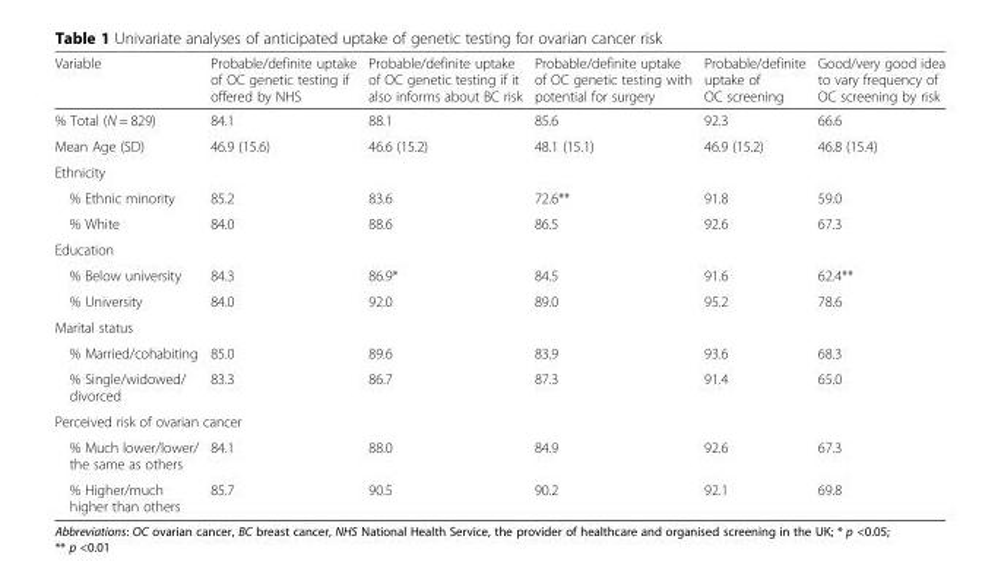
<table><thead><tr><td>Variable</td><td>Probable/definite uptake of OC genetic testing if offered by NHS</td><td>Probable/definite uptake of OC genetic testing if it also informs about BC risk</td><td>Probable/definite uptake of OC genetic testing with potential for surgery</td><td>Probable/definite uptake of OC screening</td><td>Good/very good idea to vary frequency of OC screening by risk</td></tr></thead><tbody><tr><td>% Total (N = 829)</td><td>84.1</td><td>88.1</td><td>85.6</td><td>92.3</td><td>66.6</td></tr><tr><td>Mean Age (SD)</td><td>46.9 (15.6)</td><td>46.6 (15.2)</td><td>48.1 (15.1)</td><td>46.9 (15.2)</td><td>46.8 (15.4)</td></tr><tr><td colspan="6">Ethnicity</td></tr><tr><td>% Ethnic minority</td><td>85.2</td><td>83.6</td><td>72.6**</td><td>91.8</td><td>59.0</td></tr><tr><td>% White</td><td>84.0</td><td>88.6</td><td>86.5</td><td>92.6</td><td>67.3</td></tr><tr><td colspan="6">Education</td></tr><tr><td>% Below university</td><td>84.3</td><td>86.9*</td><td>84.5</td><td>91.6</td><td>62.4**</td></tr><tr><td>% University</td><td>84.0</td><td>92.0</td><td>89.0</td><td>95.2</td><td>78.6</td></tr><tr><td colspan="6">Marital status</td></tr><tr><td>% Married/cohabiting</td><td>85.0</td><td>89.6</td><td>83.9</td><td>93.6</td><td>68.3</td></tr><tr><td>% Single/widowed/ divorced</td><td>83.3</td><td>86.7</td><td>87.3</td><td>91.4</td><td>65.0</td></tr><tr><td colspan="6">Perceived risk of ovarian cancer</td></tr><tr><td>% Much lower/lower/ the same as others</td><td>84.1</td><td>88.0</td><td>84.9</td><td>92.6</td><td>67.3</td></tr><tr><td>% Higher/much higher than others</td><td>85.7</td><td>90.5</td><td>90.2</td><td>92.1</td><td>69.8</td></tr></tbody></table>